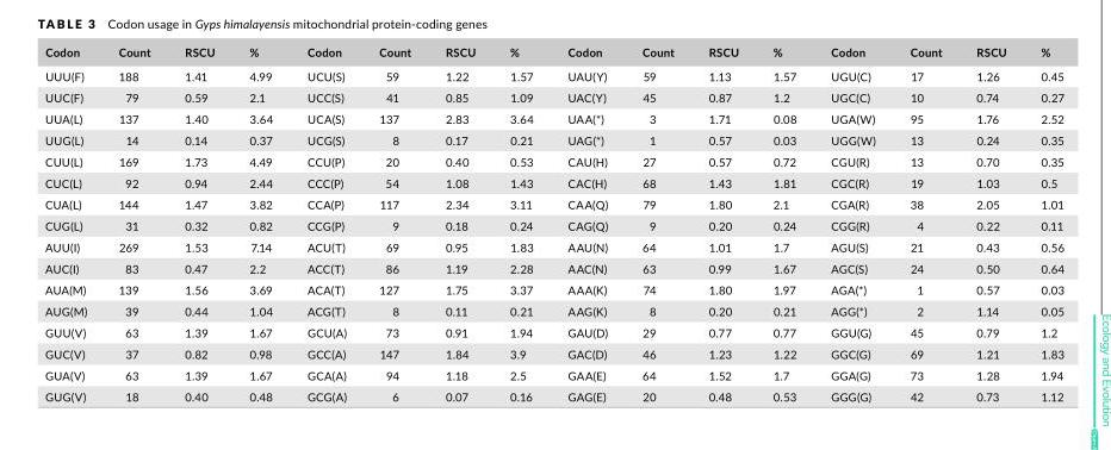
<table><thead><tr><td>Codon</td><td>Count</td><td>RSCU</td><td>%</td><td>Codon</td><td>Count</td><td>RSCU</td><td>%</td><td>Codon</td><td>Count</td><td>RSCU</td><td>%</td><td>Codon</td><td>Count</td><td>RSCU</td><td>%</td></tr></thead><tbody><tr><td>UUU(F)</td><td>188</td><td>1.41</td><td>4.99</td><td>UCU(S)</td><td>59</td><td>1.22</td><td>1.57</td><td>UAU(Y)</td><td>59</td><td>1.13</td><td>1.57</td><td>UGU(C)</td><td>17</td><td>1.26</td><td>0.45</td></tr><tr><td>UUC(F)</td><td>79</td><td>0.59</td><td>2.1</td><td>UCC(S)</td><td>41</td><td>0.85</td><td>1.09</td><td>UAC(Y)</td><td>45</td><td>0.87</td><td>1.2</td><td>UGC(C)</td><td>10</td><td>0.74</td><td>0.27</td></tr><tr><td>UUA(L)</td><td>137</td><td>1.40</td><td>3.64</td><td>UCA(S)</td><td>137</td><td>2.83</td><td>3.64</td><td>UAA(*)</td><td>3</td><td>1.71</td><td>0.08</td><td>UGA(W)</td><td>95</td><td>1.76</td><td>2.52</td></tr><tr><td>UUG(L)</td><td>14</td><td>0.14</td><td>0.37</td><td>UCG(S)</td><td>8</td><td>0.17</td><td>0.21</td><td>UAG(*)</td><td>1</td><td>0.57</td><td>0.03</td><td>UGG(W)</td><td>13</td><td>0.24</td><td>0.35</td></tr><tr><td>CUU(L)</td><td>169</td><td>1.73</td><td>4.49</td><td>CCU(P)</td><td>20</td><td>0.40</td><td>0.53</td><td>CAU(H)</td><td>27</td><td>0.57</td><td>0.72</td><td>CGU(R)</td><td>13</td><td>0.70</td><td>0.35</td></tr><tr><td>CUC(L)</td><td>92</td><td>0.94</td><td>2.44</td><td>CCC(P)</td><td>54</td><td>1.08</td><td>1.43</td><td>CAC(H)</td><td>68</td><td>1.43</td><td>1.81</td><td>CGC(R)</td><td>19</td><td>1.03</td><td>0.5</td></tr><tr><td>CUA(L)</td><td>144</td><td>1.47</td><td>3.82</td><td>CCA(P)</td><td>117</td><td>2.34</td><td>3.11</td><td>CAA(Q)</td><td>79</td><td>1.80</td><td>2.1</td><td>CGA(R)</td><td>38</td><td>2.05</td><td>1.01</td></tr><tr><td>CUG(L)</td><td>31</td><td>0.32</td><td>0.82</td><td>CCG(P)</td><td>9</td><td>0.18</td><td>0.24</td><td>CAG(Q)</td><td>9</td><td>0.20</td><td>0.24</td><td>CGG(R)</td><td>4</td><td>0.22</td><td>0.11</td></tr><tr><td>AUU(I)</td><td>269</td><td>1.53</td><td>7.14</td><td>ACU(T)</td><td>69</td><td>0.95</td><td>1.83</td><td>AAU(N)</td><td>64</td><td>1.01</td><td>1.7</td><td>AGU(S)</td><td>21</td><td>0.43</td><td>0.56</td></tr><tr><td>AUC(I)</td><td>83</td><td>0.47</td><td>2.2</td><td>ACC(T)</td><td>86</td><td>1.19</td><td>2.28</td><td>AAC(N)</td><td>63</td><td>0.99</td><td>1.67</td><td>AGC(S)</td><td>24</td><td>0.50</td><td>0.64</td></tr><tr><td>AUA(M)</td><td>139</td><td>1.56</td><td>3.69</td><td>ACA(T)</td><td>127</td><td>1.75</td><td>3.37</td><td>AAA(K)</td><td>74</td><td>1.80</td><td>1.97</td><td>AGA(*)</td><td>1</td><td>0.57</td><td>0.03</td></tr><tr><td>AUG(M)</td><td>39</td><td>0.44</td><td>1.04</td><td>ACG(T)</td><td>8</td><td>0.11</td><td>0.21</td><td>AAG(K)</td><td>8</td><td>0.20</td><td>0.21</td><td>AGG(*)</td><td>2</td><td>1.14</td><td>0.05</td></tr><tr><td>GUU(V)</td><td>63</td><td>1.39</td><td>1.67</td><td>GCU(A)</td><td>73</td><td>0.91</td><td>1.94</td><td>GAU(D)</td><td>29</td><td>0.77</td><td>0.77</td><td>GGU(G)</td><td>45</td><td>0.79</td><td>1.2</td></tr><tr><td>GUC(V)</td><td>37</td><td>0.82</td><td>0.98</td><td>GCC(A)</td><td>147</td><td>1.84</td><td>3.9</td><td>GAC(D)</td><td>46</td><td>1.23</td><td>1.22</td><td>GGC(G)</td><td>69</td><td>1.21</td><td>1.83</td></tr><tr><td>GUA(V)</td><td>63</td><td>1.39</td><td>1.67</td><td>GCA(A)</td><td>94</td><td>1.18</td><td>2.5</td><td>GAA(E)</td><td>64</td><td>1.52</td><td>1.7</td><td>GGA(G)</td><td>73</td><td>1.28</td><td>1.94</td></tr><tr><td>GUG(V)</td><td>18</td><td>0.40</td><td>0.48</td><td>GCG(A)</td><td>6</td><td>0.07</td><td>0.16</td><td>GAG(E)</td><td>20</td><td>0.48</td><td>0.53</td><td>GGG(G)</td><td>42</td><td>0.73</td><td>1.12</td></tr></tbody></table>